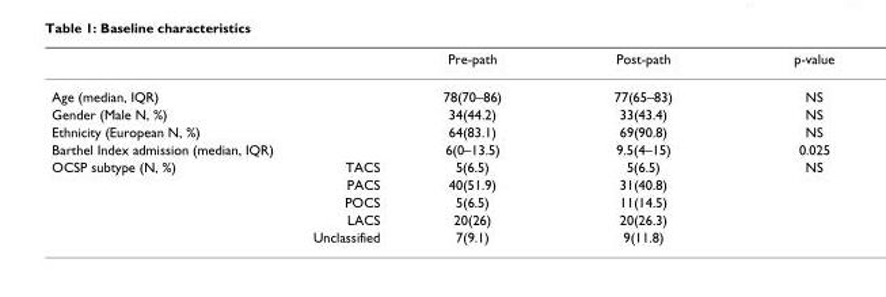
<table><thead><tr><td></td><td></td><td>Pre-path</td><td>Post-path</td><td>p-value</td></tr></thead><tbody><tr><td colspan="2">Age (median, IQR)</td><td>78(70–86)</td><td>77(65–83)</td><td>NS</td></tr><tr><td colspan="2">Gender (Male N, %)</td><td>34(44.2)</td><td>33(43.4)</td><td>NS</td></tr><tr><td colspan="2">Ethnicity (European N, %)</td><td>64(83.1)</td><td>69(90.8)</td><td>NS</td></tr><tr><td colspan="2">Barthel Index admission (median, IQR)</td><td>6(0–13.5)</td><td>9.5(4–15)</td><td>0.025</td></tr><tr><td rowspan="5">OCSP subtype (N, %)</td><td>TACS</td><td>5(6.5)</td><td>5(6.5)</td><td>NS</td></tr><tr><td>PACS</td><td>40(51.9)</td><td>31(40.8)</td><td></td></tr><tr><td>POCS</td><td>5(6.5)</td><td>11(14.5)</td><td></td></tr><tr><td>LACS</td><td>20(26)</td><td>20(26.3)</td><td></td></tr><tr><td>Unclassified</td><td>7(9.1)</td><td>9(11.8)</td><td></td></tr></tbody></table>